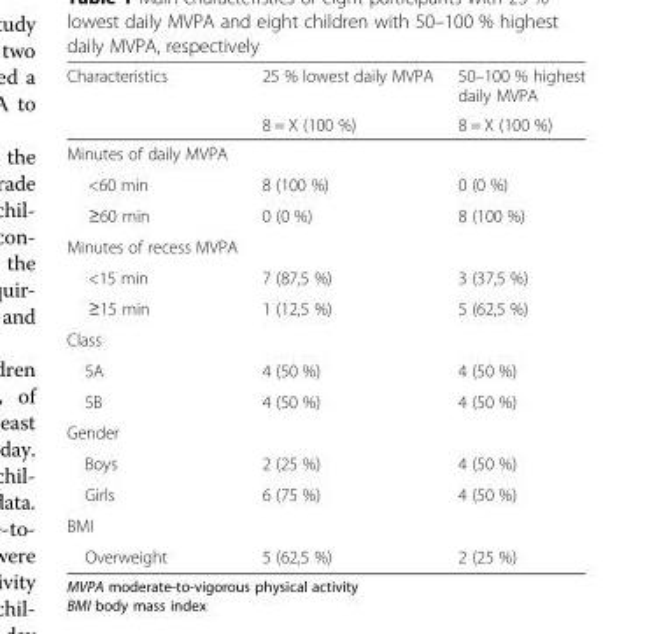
<table><thead><tr><td rowspan="2">Characteristics</td><td rowspan="2">25 % lowest daily MVPA 8 = X (100 %)</td><td rowspan="2">50–100 % highest daily MVPA 8 = X (100 %)</td></tr><tr></tr></thead><tbody><tr><td colspan="3">Minutes of daily MVPA</td></tr><tr><td>&lt;60 min</td><td>8 (100 %)</td><td>0 (0 %)</td></tr><tr><td>≥60 min</td><td>0 (0 %)</td><td>8 (100 %)</td></tr><tr><td colspan="3">Minutes of recess MVPA</td></tr><tr><td>&lt;15 min</td><td>7 (87,5 %)</td><td>3 (37,5 %)</td></tr><tr><td>≥15 min</td><td>1 (12,5 %)</td><td>5 (62,5 %)</td></tr><tr><td colspan="3">Class</td></tr><tr><td>5A</td><td>4 (50 %)</td><td>4 (50 %)</td></tr><tr><td>5B</td><td>4 (50 %)</td><td>4 (50 %)</td></tr><tr><td colspan="3">Gender</td></tr><tr><td>Boys</td><td>2 (25 %)</td><td>4 (50 %)</td></tr><tr><td>Girls</td><td>6 (75 %)</td><td>4 (50 %)</td></tr><tr><td colspan="3">BMI</td></tr><tr><td>Overweight</td><td>5 (62,5 %)</td><td>2 (25 %)</td></tr></tbody></table>